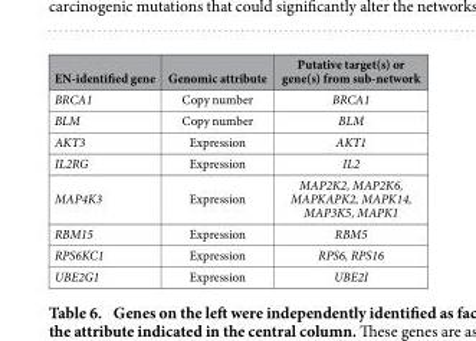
<table><thead><tr><td>EN-identified gene</td><td>Genomic attribute</td><td>Putative target(s) or gene(s) from sub-network</td></tr></thead><tbody><tr><td>BRCA1</td><td>Copy number</td><td>BRCA1</td></tr><tr><td>BLM</td><td>Copy number</td><td>BLM</td></tr><tr><td>AKT3</td><td>Expression</td><td>AKT1</td></tr><tr><td>IL2RG</td><td>Expression</td><td>IL2</td></tr><tr><td>MAP4K3</td><td>Expression</td><td>MAP2K2, MAP2K6, MAPKAPK2, MAPK14, MAP3K5, MAPK1</td></tr><tr><td>RBM15</td><td>Expression</td><td>RBM5</td></tr><tr><td>RPS6KC1</td><td>Expression</td><td>RPS6, RPS16</td></tr><tr><td>UBE2G1</td><td>Expression</td><td>UBE2I</td></tr></tbody></table>